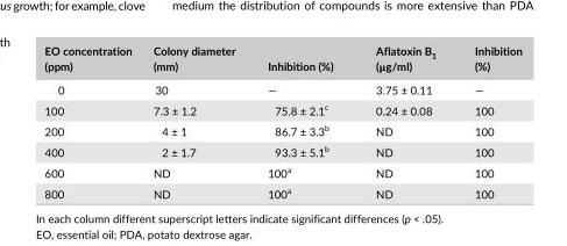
<table><thead><tr><td>EO concentration (ppm)</td><td>Colony diameter (mm)</td><td>Inhibition (%)</td><td>Aflatoxin B<sub>1</sub> (μg/ml)</td><td>Inhibition (%)</td></tr></thead><tbody><tr><td>0</td><td>30</td><td>—</td><td>3.75 ± 0.11</td><td>—</td></tr><tr><td>100</td><td>7.3 ± 1.2</td><td>75.8 ± 2.1<sup>c</sup></td><td>0.24 ± 0.08</td><td>100</td></tr><tr><td>200</td><td>4 ± 1</td><td>86.7 ± 3.3<sup>b</sup></td><td>ND</td><td>100</td></tr><tr><td>400</td><td>2 ± 1.7</td><td>93.3 ± 5.1<sup>b</sup></td><td>ND</td><td>100</td></tr><tr><td>600</td><td>ND</td><td>100<sup>a</sup></td><td>ND</td><td>100</td></tr><tr><td>800</td><td>ND</td><td>100<sup>a</sup></td><td>ND</td><td>100</td></tr></tbody></table>